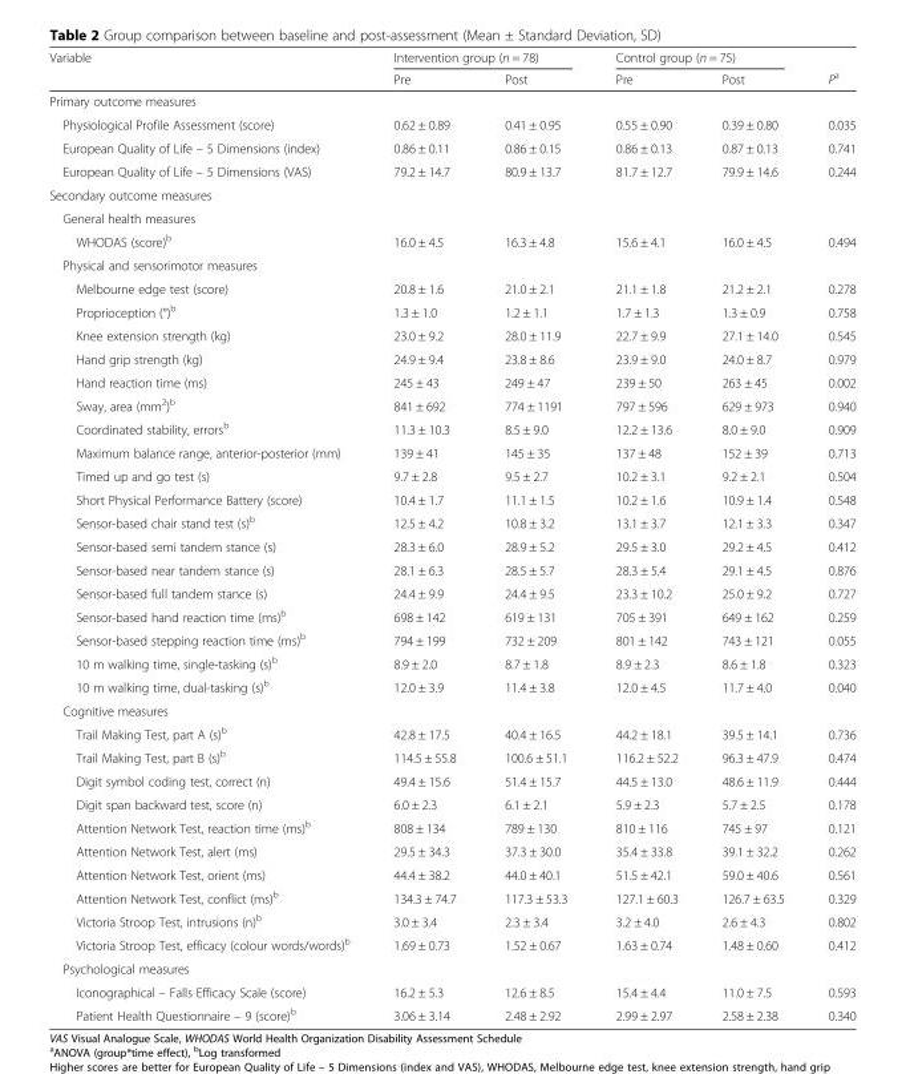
<table><thead><tr><td rowspan="2">Variable</td><td colspan="2">Intervention group (n = 78)</td><td colspan="2">Control group (n = 75)</td><td rowspan="2">P<sup>a</sup></td></tr><tr><td>Pre</td><td>Post</td><td>Pre</td><td>Post</td></tr></thead><tbody><tr><td colspan="6">Primary outcome measures</td></tr><tr><td>Physiological Profile Assessment (score)</td><td>0.62 ± 0.89</td><td>0.41 ± 0.95</td><td>0.55 ± 0.90</td><td>0.39 ± 0.80</td><td>0.035</td></tr><tr><td>European Quality of Life – 5 Dimensions (index)</td><td>0.86 ± 0.11</td><td>0.86 ± 0.15</td><td>0.86 ± 0.13</td><td>0.87 ± 0.13</td><td>0.741</td></tr><tr><td>European Quality of Life – 5 Dimensions (VAS)</td><td>79.2 ± 14.7</td><td>80.9 ± 13.7</td><td>81.7 ± 12.7</td><td>79.9 ± 14.6</td><td>0.244</td></tr><tr><td colspan="6">Secondary outcome measures</td></tr><tr><td colspan="6">General health measures</td></tr><tr><td>WHODAS (score)<sup>b</sup></td><td>16.0 ± 4.5</td><td>16.3 ± 4.8</td><td>15.6 ± 4.1</td><td>16.0 ± 4.5</td><td>0.494</td></tr><tr><td colspan="6">Physical and sensorimotor measures</td></tr><tr><td>Melbourne edge test (score)</td><td>20.8 ± 1.6</td><td>21.0 ± 2.1</td><td>21.1 ± 1.8</td><td>21.2 ± 2.1</td><td>0.278</td></tr><tr><td>Proprioception (°)<sup>b</sup></td><td>1.3 ± 1.0</td><td>1.2 ± 1.1</td><td>1.7 ± 1.3</td><td>1.3 ± 0.9</td><td>0.758</td></tr><tr><td>Knee extension strength (kg)</td><td>23.0 ± 9.2</td><td>28.0 ± 11.9</td><td>22.7 ± 9.9</td><td>27.1 ± 14.0</td><td>0.545</td></tr><tr><td>Hand grip strength (kg)</td><td>24.9 ± 9.4</td><td>23.8 ± 8.6</td><td>23.9 ± 9.0</td><td>24.0 ± 8.7</td><td>0.979</td></tr><tr><td>Hand reaction time (ms)</td><td>245 ± 43</td><td>249 ± 47</td><td>239 ± 50</td><td>263 ± 45</td><td>0.002</td></tr><tr><td>Sway, area (mm<sup>2</sup>)<sup>b</sup></td><td>841 ± 692</td><td>774 ± 1191</td><td>797 ± 596</td><td>629 ± 973</td><td>0.940</td></tr><tr><td>Coordinated stability, errors<sup>b</sup></td><td>11.3 ± 10.3</td><td>8.5 ± 9.0</td><td>12.2 ± 13.6</td><td>8.0 ± 9.0</td><td>0.909</td></tr><tr><td>Maximum balance range, anterior-posterior (mm)</td><td>139 ± 41</td><td>145 ± 35</td><td>137 ± 48</td><td>152 ± 39</td><td>0.713</td></tr><tr><td>Timed up and go test (s)</td><td>9.7 ± 2.8</td><td>9.5 ± 2.7</td><td>10.2 ± 3.1</td><td>9.2 ± 2.1</td><td>0.504</td></tr><tr><td>Short Physical Performance Battery (score)</td><td>10.4 ± 1.7</td><td>11.1 ± 1.5</td><td>10.2 ± 1.6</td><td>10.9 ± 1.4</td><td>0.548</td></tr><tr><td>Sensor-based chair stand test (s)<sup>b</sup></td><td>12.5 ± 4.2</td><td>10.8 ± 3.2</td><td>13.1 ± 3.7</td><td>12.1 ± 3.3</td><td>0.347</td></tr><tr><td>Sensor-based semi tandem stance (s)</td><td>28.3 ± 6.0</td><td>28.9 ± 5.2</td><td>29.5 ± 3.0</td><td>29.2 ± 4.5</td><td>0.412</td></tr><tr><td>Sensor-based near tandem stance (s)</td><td>28.1 ± 6.3</td><td>28.5 ± 5.7</td><td>28.3 ± 5.4</td><td>29.1 ± 4.5</td><td>0.876</td></tr><tr><td>Sensor-based full tandem stance (s)</td><td>24.4 ± 9.9</td><td>24.4 ± 9.5</td><td>23.3 ± 10.2</td><td>25.0 ± 9.2</td><td>0.727</td></tr><tr><td>Sensor-based hand reaction time (ms)<sup>b</sup></td><td>698 ± 142</td><td>619 ± 131</td><td>705 ± 391</td><td>649 ± 162</td><td>0.259</td></tr><tr><td>Sensor-based stepping reaction time (ms)<sup>b</sup></td><td>794 ± 199</td><td>732 ± 209</td><td>801 ± 142</td><td>743 ± 121</td><td>0.055</td></tr><tr><td>10 m walking time, single-tasking (s)<sup>b</sup></td><td>8.9 ± 2.0</td><td>8.7 ± 1.8</td><td>8.9 ± 2.3</td><td>8.6 ± 1.8</td><td>0.323</td></tr><tr><td>10 m walking time, dual-tasking (s)<sup>b</sup></td><td>12.0 ± 3.9</td><td>11.4 ± 3.8</td><td>12.0 ± 4.5</td><td>11.7 ± 4.0</td><td>0.040</td></tr><tr><td colspan="6">Cognitive measures</td></tr><tr><td>Trail Making Test, part A (s)<sup>b</sup></td><td>42.8 ± 17.5</td><td>40.4 ± 16.5</td><td>44.2 ± 18.1</td><td>39.5 ± 14.1</td><td>0.736</td></tr><tr><td>Trail Making Test, part B (s)<sup>b</sup></td><td>114.5 ± 55.8</td><td>100.6 ± 51.1</td><td>116.2 ± 52.2</td><td>96.3 ± 47.9</td><td>0.474</td></tr><tr><td>Digit symbol coding test, correct (n)</td><td>49.4 ± 15.6</td><td>51.4 ± 15.7</td><td>44.5 ± 13.0</td><td>48.6 ± 11.9</td><td>0.444</td></tr><tr><td>Digit span backward test, score (n)</td><td>6.0 ± 2.3</td><td>6.1 ± 2.1</td><td>5.9 ± 2.3</td><td>5.7 ± 2.5</td><td>0.178</td></tr><tr><td>Attention Network Test, reaction time (ms)<sup>b</sup></td><td>808 ± 134</td><td>789 ± 130</td><td>810 ± 116</td><td>745 ± 97</td><td>0.121</td></tr><tr><td>Attention Network Test, alert (ms)</td><td>29.5 ± 34.3</td><td>37.3 ± 30.0</td><td>35.4 ± 33.8</td><td>39.1 ± 32.2</td><td>0.262</td></tr><tr><td>Attention Network Test, orient (ms)</td><td>44.4 ± 38.2</td><td>44.0 ± 40.1</td><td>51.5 ± 42.1</td><td>59.0 ± 40.6</td><td>0.561</td></tr><tr><td>Attention Network Test, conflict (ms)<sup>b</sup></td><td>134.3 ± 74.7</td><td>117.3 ± 53.3</td><td>127.1 ± 60.3</td><td>126.7 ± 63.5</td><td>0.329</td></tr><tr><td>Victoria Stroop Test, intrusions (n)<sup>b</sup></td><td>3.0 ± 3.4</td><td>2.3 ± 3.4</td><td>3.2 ± 4.0</td><td>2.6 ± 4.3</td><td>0.802</td></tr><tr><td>Victoria Stroop Test, efficacy (colour words/words)<sup>b</sup></td><td>1.69 ± 0.73</td><td>1.52 ± 0.67</td><td>1.63 ± 0.74</td><td>1.48 ± 0.60</td><td>0.412</td></tr><tr><td colspan="6">Psychological measures</td></tr><tr><td>Iconographical – Falls Efficacy Scale (score)</td><td>16.2 ± 5.3</td><td>12.6 ± 8.5</td><td>15.4 ± 4.4</td><td>11.0 ± 7.5</td><td>0.593</td></tr><tr><td>Patient Health Questionnaire – 9 (score)<sup>b</sup></td><td>3.06 ± 3.14</td><td>2.48 ± 2.92</td><td>2.99 ± 2.97</td><td>2.58 ± 2.38</td><td>0.340</td></tr></tbody></table>